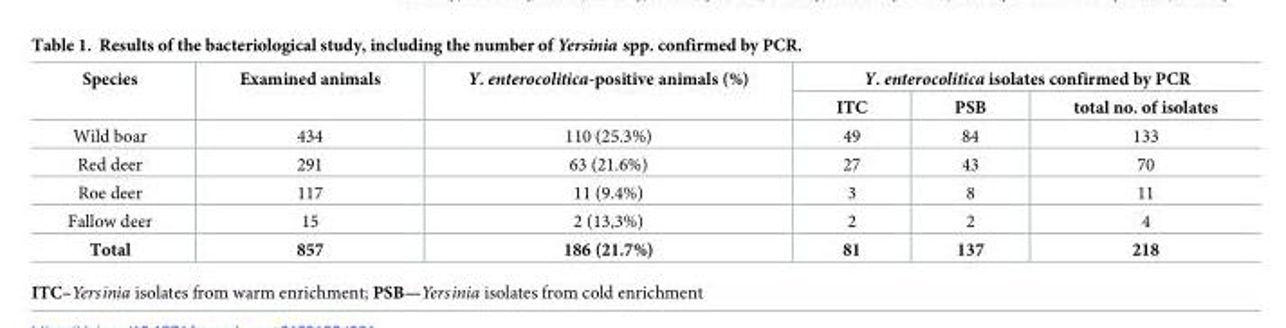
<table><thead><tr><td rowspan="2">Species</td><td rowspan="2">Examined animals</td><td rowspan="2">Y. enterocolitica-positive animals (%)</td><td colspan="3">Y. enterocolitica isolates confirmed by PCR</td></tr><tr><td>ITC</td><td>PSB</td><td>total no. of isolates</td></tr></thead><tbody><tr><td>Wild boar</td><td>434</td><td>110 (25.3%)</td><td>49</td><td>84</td><td>133</td></tr><tr><td>Red deer</td><td>291</td><td>63 (21.6%)</td><td>27</td><td>43</td><td>70</td></tr><tr><td>Roe deer</td><td>117</td><td>11 (9.4%)</td><td>3</td><td>8</td><td>11</td></tr><tr><td>Fallow deer</td><td>15</td><td>2 (13,3%)</td><td>2</td><td>2</td><td>4</td></tr><tr><td>Total</td><td>857</td><td>186 (21.7%)</td><td>81</td><td>137</td><td>218</td></tr></tbody></table>